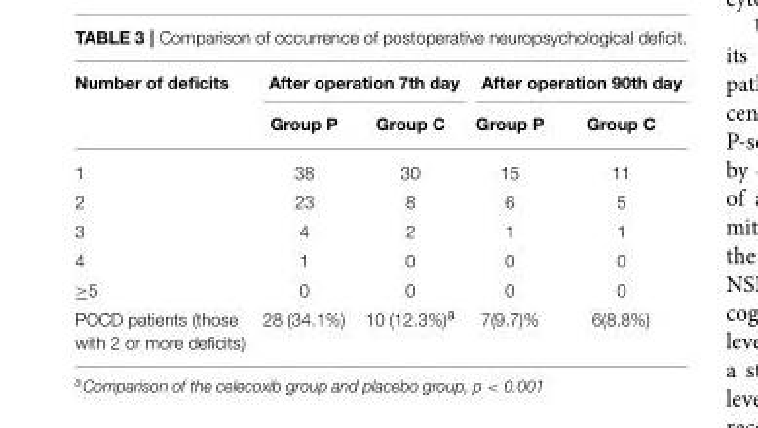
<table><thead><tr><td rowspan="2">Number of deficits</td><td colspan="2">After operation 7th day</td><td colspan="2">After operation 90th day</td></tr><tr><td>Group P</td><td>Group C</td><td>Group P</td><td>Group C</td></tr></thead><tbody><tr><td>1</td><td>38</td><td>30</td><td>15</td><td>11</td></tr><tr><td>2</td><td>23</td><td>8</td><td>6</td><td>5</td></tr><tr><td>3</td><td>4</td><td>2</td><td>1</td><td>1</td></tr><tr><td>4</td><td>1</td><td>0</td><td>0</td><td>0</td></tr><tr><td>≥5</td><td>0</td><td>0</td><td>0</td><td>0</td></tr><tr><td>POCD patients (those with 2 or more deficits)</td><td>28 (34.1%)</td><td>10 (12.3%)<sup>a</sup></td><td>7(9.7)%</td><td>6(8.8%)</td></tr></tbody></table>